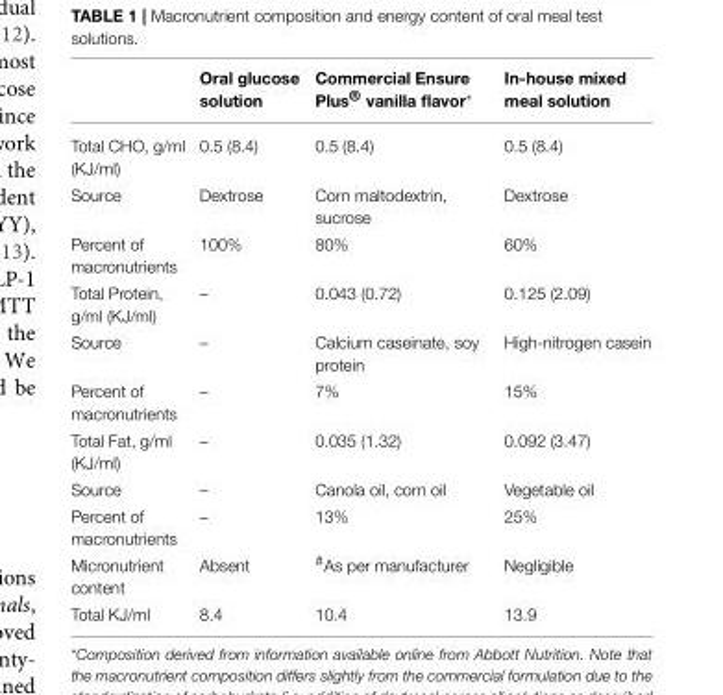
<table><thead><tr><td></td><td>Oral glucose solution</td><td>Commercial Ensure Plus<sup>®</sup> vanilla flavor*</td><td>In-house mixed meal solution</td></tr></thead><tbody><tr><td>Total CHO, g/ml (KJ/ml)</td><td>0.5 (8.4)</td><td>0.5 (8.4)</td><td>0.5 (8.4)</td></tr><tr><td>Source</td><td>Dextrose</td><td>Corn maltodextrin, sucrose</td><td>Dextrose</td></tr><tr><td>Percent of macronutrients</td><td>100%</td><td>80%</td><td>60%</td></tr><tr><td>Total Protein, g/ml (KJ/ml)</td><td>–</td><td>0.043 (0.72)</td><td>0.125 (2.09)</td></tr><tr><td>Source</td><td>–</td><td>Calcium caseinate, soy protein</td><td>High-nitrogen casein</td></tr><tr><td>Percent of macronutrients</td><td>–</td><td>7%</td><td>15%</td></tr><tr><td>Total Fat, g/ml (KJ/ml)</td><td>–</td><td>0.035 (1.32)</td><td>0.092 (3.47)</td></tr><tr><td>Source</td><td>–</td><td>Canola oil, corn oil</td><td>Vegetable oil</td></tr><tr><td>Percent of macronutrients</td><td>–</td><td>13%</td><td>25%</td></tr><tr><td>Micronutrient content</td><td>Absent</td><td><sup>#</sup>As per manufacturer</td><td>Negligible</td></tr><tr><td>Total KJ/ml</td><td>8.4</td><td>10.4</td><td>13.9</td></tr></tbody></table>